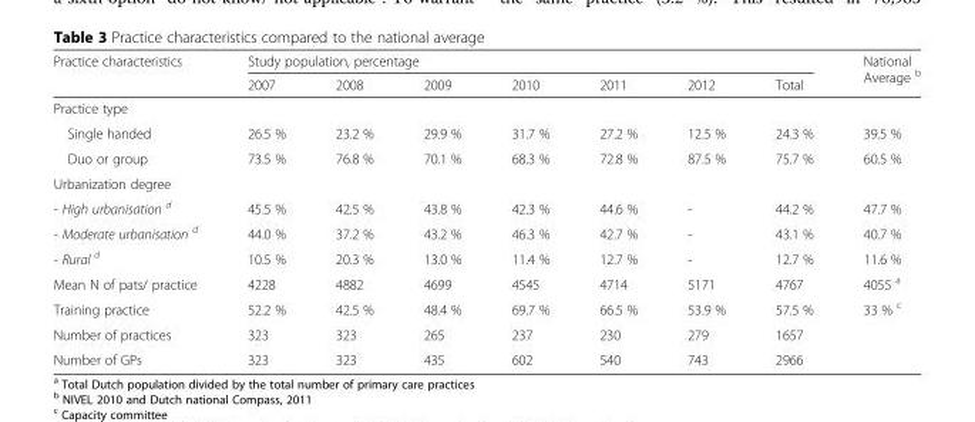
<table><thead><tr><td rowspan="2">Practice characteristics</td><td colspan="7">Study population, percentage</td><td rowspan="2">National Average <sup>b</sup></td></tr><tr><td>2007</td><td>2008</td><td>2009</td><td>2010</td><td>2011</td><td>2012</td><td>Total</td></tr></thead><tbody><tr><td colspan="9">Practice type</td></tr><tr><td>Single handed</td><td>26.5 %</td><td>23.2 %</td><td>29.9 %</td><td>31.7 %</td><td>27.2 %</td><td>12.5 %</td><td>24.3 %</td><td>39.5 %</td></tr><tr><td>Duo or group</td><td>73.5 %</td><td>76.8 %</td><td>70.1 %</td><td>68.3 %</td><td>72.8 %</td><td>87.5 %</td><td>75.7 %</td><td>60.5 %</td></tr><tr><td colspan="9">Urbanization degree</td></tr><tr><td>- High urbanisation <sup>d</sup></td><td>45.5 %</td><td>42.5 %</td><td>43.8 %</td><td>42.3 %</td><td>44.6 %</td><td>-</td><td>44.2 %</td><td>47.7 %</td></tr><tr><td>- Moderate urbanisation <sup>d</sup></td><td>44.0 %</td><td>37.2 %</td><td>43.2 %</td><td>46.3 %</td><td>42.7 %</td><td>-</td><td>43.1 %</td><td>40.7 %</td></tr><tr><td>- Rural <sup>d</sup></td><td>10.5 %</td><td>20.3 %</td><td>13.0 %</td><td>11.4 %</td><td>12.7 %</td><td>-</td><td>12.7 %</td><td>11.6 %</td></tr><tr><td>Mean N of pats/ practice</td><td>4228</td><td>4882</td><td>4699</td><td>4545</td><td>4714</td><td>5171</td><td>4767</td><td>4055 <sup>a</sup></td></tr><tr><td>Training practice</td><td>52.2 %</td><td>42.5 %</td><td>48.4 %</td><td>69.7 %</td><td>66.5 %</td><td>53.9 %</td><td>57.5 %</td><td>33 % <sup>c</sup></td></tr><tr><td>Number of practices</td><td>323</td><td>323</td><td>265</td><td>237</td><td>230</td><td>279</td><td>1657</td><td></td></tr><tr><td>Number of GPs</td><td>323</td><td>323</td><td>435</td><td>602</td><td>540</td><td>743</td><td>2966</td><td></td></tr></tbody></table>